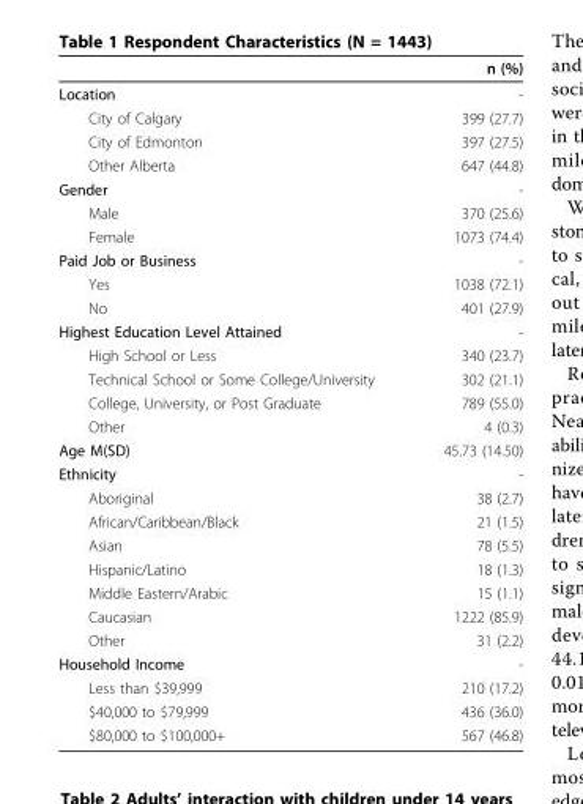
<table><thead><tr><td></td><td>n (%)</td></tr></thead><tbody><tr><td>Location</td><td>-</td></tr><tr><td>City of Calgary</td><td>399 (27.7)</td></tr><tr><td>City of Edmonton</td><td>397 (27.5)</td></tr><tr><td>Other Alberta</td><td>647 (44.8)</td></tr><tr><td>Gender</td><td>-</td></tr><tr><td>Male</td><td>370 (25.6)</td></tr><tr><td>Female</td><td>1073 (74.4)</td></tr><tr><td>Paid Job or Business</td><td>-</td></tr><tr><td>Yes</td><td>1038 (72.1)</td></tr><tr><td>No</td><td>401 (27.9)</td></tr><tr><td>Highest Education Level Attained</td><td>-</td></tr><tr><td>High School or Less</td><td>340 (23.7)</td></tr><tr><td>Technical School or Some College/University</td><td>302 (21.1)</td></tr><tr><td>College, University, or Post Graduate</td><td>789 (55.0)</td></tr><tr><td>Other</td><td>4 (0.3)</td></tr><tr><td>Age M(SD)</td><td>45.73 (14.50)</td></tr><tr><td>Ethnicity</td><td>-</td></tr><tr><td>Aboriginal</td><td>38 (2.7)</td></tr><tr><td>African/Caribbean/Black</td><td>21 (1.5)</td></tr><tr><td>Asian</td><td>78 (5.5)</td></tr><tr><td>Hispanic/Latino</td><td>18 (1.3)</td></tr><tr><td>Middle Eastern/Arabic</td><td>15 (1.1)</td></tr><tr><td>Caucasian</td><td>1222 (85.9)</td></tr><tr><td>Other</td><td>31 (2.2)</td></tr><tr><td>Household Income</td><td>-</td></tr><tr><td>Less than $39,999</td><td>210 (17.2)</td></tr><tr><td>$40,000 to $79,999</td><td>436 (36.0)</td></tr><tr><td>$80,000 to $100,000+</td><td>567 (46.8)</td></tr></tbody></table>